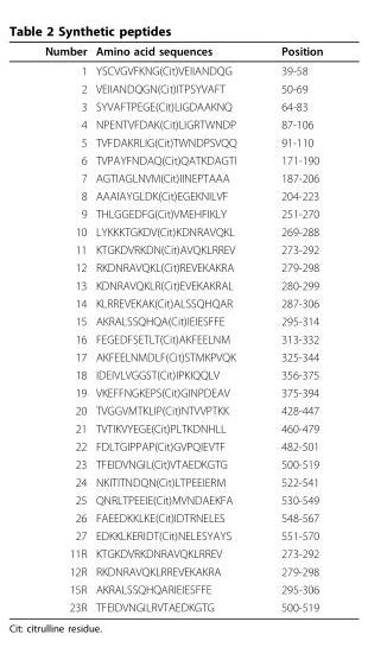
<table><thead><tr><td>Number</td><td>Amino acid sequences</td><td>Position</td></tr></thead><tbody><tr><td>1</td><td>YSCVGVFKNG(Cit)VEIIANDQG</td><td>39-58</td></tr><tr><td>2</td><td>VEIIANDQGN(Cit)ITPSYVAFT</td><td>50-69</td></tr><tr><td>3</td><td>SYVAFTPEGE(Cit)LIGDAAKNQ</td><td>64-83</td></tr><tr><td>4</td><td>NPENTVFDAK(Cit)LIGRTWNDP</td><td>87-106</td></tr><tr><td>5</td><td>TVFDAKRLIG(Cit)TWNDPSVQQ</td><td>91-110</td></tr><tr><td>6</td><td>TVPAYFNDAQ(Cit)QATKDAGTI</td><td>171-190</td></tr><tr><td>7</td><td>AGTIAGLNVM(Cit)IINEPTAAA</td><td>187-206</td></tr><tr><td>8</td><td>AAAIAYGLDK(Cit)EGEKNILVF</td><td>204-223</td></tr><tr><td>9</td><td>THLGGEDFG(Cit)VMEHFIKLY</td><td>251-270</td></tr><tr><td>10</td><td>LYKKKTGKDV(Cit)KDNRAVQKL</td><td>269-288</td></tr><tr><td>11</td><td>KTGKDVRKDN(Cit)AVQKLRREV</td><td>273-292</td></tr><tr><td>12</td><td>RKDNRAVQKL(Cit)REVEKAKRA</td><td>279-298</td></tr><tr><td>13</td><td>KDNRAVQKLR(Cit)EVEKAKRAL</td><td>280-299</td></tr><tr><td>14</td><td>KLRREVEKAK(Cit)ALSSQHQAR</td><td>287-306</td></tr><tr><td>15</td><td>AKRALSSQHQA(Cit)IEIESFFE</td><td>295-314</td></tr><tr><td>16</td><td>FEGEDFSETLT(Cit)AKFEELNM</td><td>313-332</td></tr><tr><td>17</td><td>AKFEELNMDLF(Cit)STMKPVQK</td><td>325-344</td></tr><tr><td>18</td><td>IDEIVLVGGST(Cit)IPKIQQLV</td><td>356-375</td></tr><tr><td>19</td><td>VKEFFNGKEPS(Cit)GINPDEAV</td><td>375-394</td></tr><tr><td>20</td><td>TVGGVMTKLIP(Cit)NTVVPTKK</td><td>428-447</td></tr><tr><td>21</td><td>TVTIKVYEGE(Cit)PLTKDNHLL</td><td>460-479</td></tr><tr><td>22</td><td>FDLTGIPPAP(Cit)GVPQIEVTF</td><td>482-501</td></tr><tr><td>23</td><td>TFEIDVNGIL(Cit)VTAEDKGTG</td><td>500-519</td></tr><tr><td>24</td><td>NKITITNDQN(Cit)LTPEEIERM</td><td>522-541</td></tr><tr><td>25</td><td>QNRLTPEEIE(Cit)MVNDAEKFA</td><td>530-549</td></tr><tr><td>26</td><td>FAEEDKKLKE(Cit)IDTRNELES</td><td>548-567</td></tr><tr><td>27</td><td>EDKKLKERIDT(Cit)NELESYAYS</td><td>551-570</td></tr><tr><td>11R</td><td>KTGKDVRKDNRAVQKLRREV</td><td>273-292</td></tr><tr><td>12R</td><td>RKDNRAVQKLRREVEKAKRA</td><td>279-298</td></tr><tr><td>15R</td><td>AKRALSSQHQARIEIESFFE</td><td>295-306</td></tr><tr><td>23R</td><td>TFEIDVNGILRVTAEDKGTG</td><td>500-519</td></tr></tbody></table>